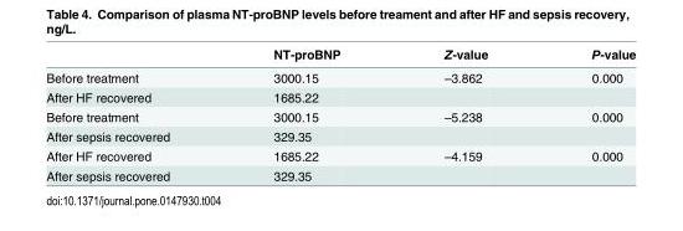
<table><thead><tr><td></td><td>NT-proBNP</td><td>Z-value</td><td>P-value</td></tr></thead><tbody><tr><td>Before treatment</td><td>3000.15</td><td>–3.862</td><td>0.000</td></tr><tr><td>After HF recovered</td><td>1685.22</td><td></td><td></td></tr><tr><td>Before treatment</td><td>3000.15</td><td>–5.238</td><td>0.000</td></tr><tr><td>After sepsis recovered</td><td>329.35</td><td></td><td></td></tr><tr><td>After HF recovered</td><td>1685.22</td><td>–4.159</td><td>0.000</td></tr><tr><td>After sepsis recovered</td><td>329.35</td><td></td><td></td></tr></tbody></table>